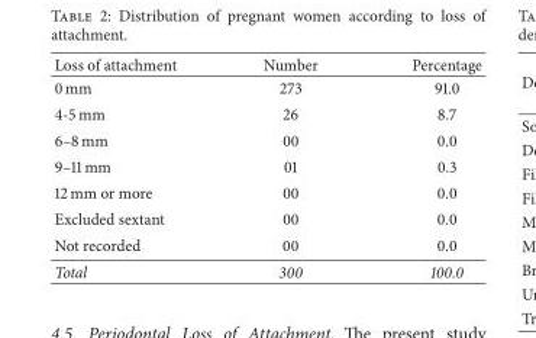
<table><thead><tr><td>Loss of attachment</td><td>Number</td><td>Percentage</td></tr></thead><tbody><tr><td>0 mm</td><td>273</td><td>91.0</td></tr><tr><td>4-5 mm</td><td>26</td><td>8.7</td></tr><tr><td>6–8 mm</td><td>00</td><td>0.0</td></tr><tr><td>9–11 mm</td><td>01</td><td>0.3</td></tr><tr><td>12 mm or more</td><td>00</td><td>0.0</td></tr><tr><td>Excluded sextant</td><td>00</td><td>0.0</td></tr><tr><td>Not recorded</td><td>00</td><td>0.0</td></tr><tr><td>Total</td><td>300</td><td>100.0</td></tr></tbody></table>